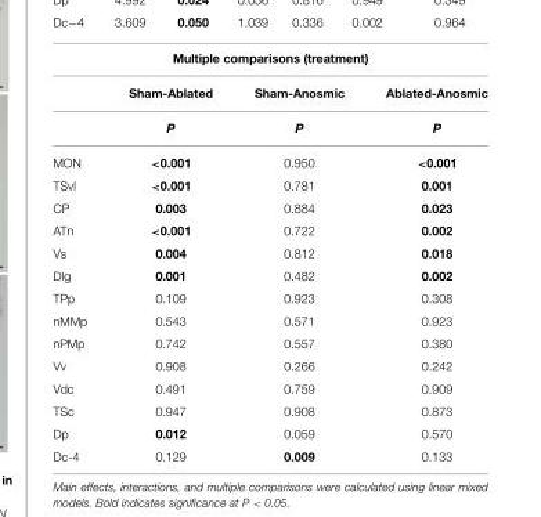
<table><thead><tr><td colspan="4">Multiple comparisons (treatment)</td></tr><tr><td rowspan="2"></td><td rowspan="2">Sham-Ablated P</td><td rowspan="2">Sham-Anosmic P</td><td rowspan="2">Ablated-Anosmic P</td></tr><tr></tr></thead><tbody><tr><td>MON</td><td>&lt;0.001</td><td>0.950</td><td>&lt;0.001</td></tr><tr><td>TSvl</td><td>&lt;0.001</td><td>0.781</td><td>0.001</td></tr><tr><td>CP</td><td>0.003</td><td>0.884</td><td>0.023</td></tr><tr><td>ATn</td><td>&lt;0.001</td><td>0.722</td><td>0.002</td></tr><tr><td>Vs</td><td>0.004</td><td>0.812</td><td>0.018</td></tr><tr><td>Dlg</td><td>0.001</td><td>0.482</td><td>0.002</td></tr><tr><td>TPp</td><td>0.109</td><td>0.923</td><td>0.308</td></tr><tr><td>nMMp</td><td>0.543</td><td>0.571</td><td>0.923</td></tr><tr><td>nPMp</td><td>0.742</td><td>0.557</td><td>0.380</td></tr><tr><td>Vv</td><td>0.908</td><td>0.266</td><td>0.242</td></tr><tr><td>Vdc</td><td>0.491</td><td>0.759</td><td>0.909</td></tr><tr><td>TSc</td><td>0.947</td><td>0.908</td><td>0.873</td></tr><tr><td>Dp</td><td>0.012</td><td>0.059</td><td>0.570</td></tr><tr><td>Dc-4</td><td>0.129</td><td>0.009</td><td>0.133</td></tr></tbody></table>